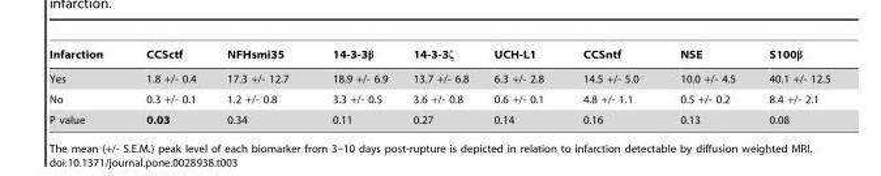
<table><thead><tr><td>Infarction</td><td>CCSctf</td><td>NFHsmi35</td><td>14-3-3β</td><td>14-3-3ζ</td><td>UCH-L1</td><td>CCSntf</td><td>NSE</td><td>S100β</td></tr></thead><tbody><tr><td>Yes</td><td>1.8 +/- 0.4</td><td>17.3 +/- 12.7</td><td>18.9 +/- 6.9</td><td>13.7 +/- 6.8</td><td>6.3 +/- 2.8</td><td>14.5 +/- 5.0</td><td>10.0 +/- 4.5</td><td>40.1 +/- 12.5</td></tr><tr><td>No</td><td>0.3 +/- 0.1</td><td>1.2 +/- 0.8</td><td>3.3 +/- 0.5</td><td>3.6 +/- 0.8</td><td>0.6 +/- 0.1</td><td>4.8 +/- 1.1</td><td>0.5 +/- 0.2</td><td>8.4 +/- 2.1</td></tr><tr><td>P value</td><td>0.03</td><td>0.34</td><td>0.11</td><td>0.27</td><td>0.14</td><td>0.16</td><td>0.13</td><td>0.08</td></tr></tbody></table>